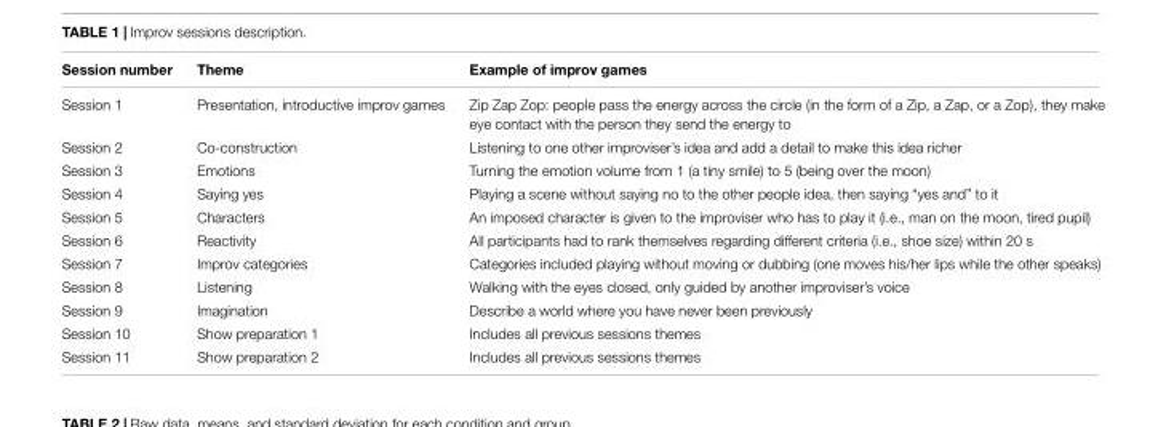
<table><thead><tr><td>Session number</td><td>Theme</td><td>Example of improv games</td></tr></thead><tbody><tr><td>Session 1</td><td>Presentation, introductive improv games</td><td>Zip Zap Zop: people pass the energy across the circle (in the form of a Zip, a Zap, or a Zop), they make eye contact with the person they send the energy to</td></tr><tr><td>Session 2</td><td>Co-construction</td><td>Listening to one other improviser’s idea and add a detail to make this idea richer</td></tr><tr><td>Session 3</td><td>Emotions</td><td>Turning the emotion volume from 1 (a tiny smile) to 5 (being over the moon)</td></tr><tr><td>Session 4</td><td>Saying yes</td><td>Playing a scene without saying no to the other people idea, then saying “yes and” to it</td></tr><tr><td>Session 5</td><td>Characters</td><td>An imposed character is given to the improviser who has to play it (i.e., man on the moon, tired pupil)</td></tr><tr><td>Session 6</td><td>Reactivity</td><td>All participants had to rank themselves regarding different criteria (i.e., shoe size) within 20 s</td></tr><tr><td>Session 7</td><td>Improv categories</td><td>Categories included playing without moving or dubbing (one moves his/her lips while the other speaks)</td></tr><tr><td>Session 8</td><td>Listening</td><td>Walking with the eyes closed, only guided by another improviser’s voice</td></tr><tr><td>Session 9</td><td>Imagination</td><td>Describe a world where you have never been previously</td></tr><tr><td>Session 10</td><td>Show preparation 1</td><td>Includes all previous sessions themes</td></tr><tr><td>Session 11</td><td>Show preparation 2</td><td>Includes all previous sessions themes</td></tr></tbody></table>